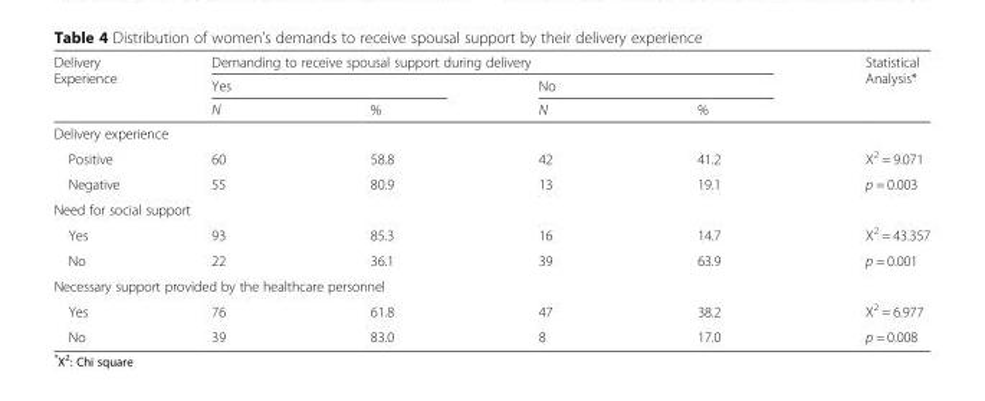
<table><thead><tr><td rowspan="3">Delivery Experience</td><td colspan="4">Demanding to receive spousal support during delivery</td><td rowspan="3">Statistical Analysis*</td></tr><tr><td colspan="2">Yes</td><td colspan="2">No</td></tr><tr><td>N</td><td>%</td><td>N</td><td>%</td></tr></thead><tbody><tr><td colspan="6">Delivery experience</td></tr><tr><td>Positive</td><td>60</td><td>58.8</td><td>42</td><td>41.2</td><td>X<sup>2</sup> = 9.071</td></tr><tr><td>Negative</td><td>55</td><td>80.9</td><td>13</td><td>19.1</td><td>p = 0.003</td></tr><tr><td colspan="6">Need for social support</td></tr><tr><td>Yes</td><td>93</td><td>85.3</td><td>16</td><td>14.7</td><td>X<sup>2</sup> = 43.357</td></tr><tr><td>No</td><td>22</td><td>36.1</td><td>39</td><td>63.9</td><td>p = 0.001</td></tr><tr><td colspan="6">Necessary support provided by the healthcare personnel</td></tr><tr><td>Yes</td><td>76</td><td>61.8</td><td>47</td><td>38.2</td><td>X<sup>2</sup> = 6.977</td></tr><tr><td>No</td><td>39</td><td>83.0</td><td>8</td><td>17.0</td><td>p = 0.008</td></tr></tbody></table>